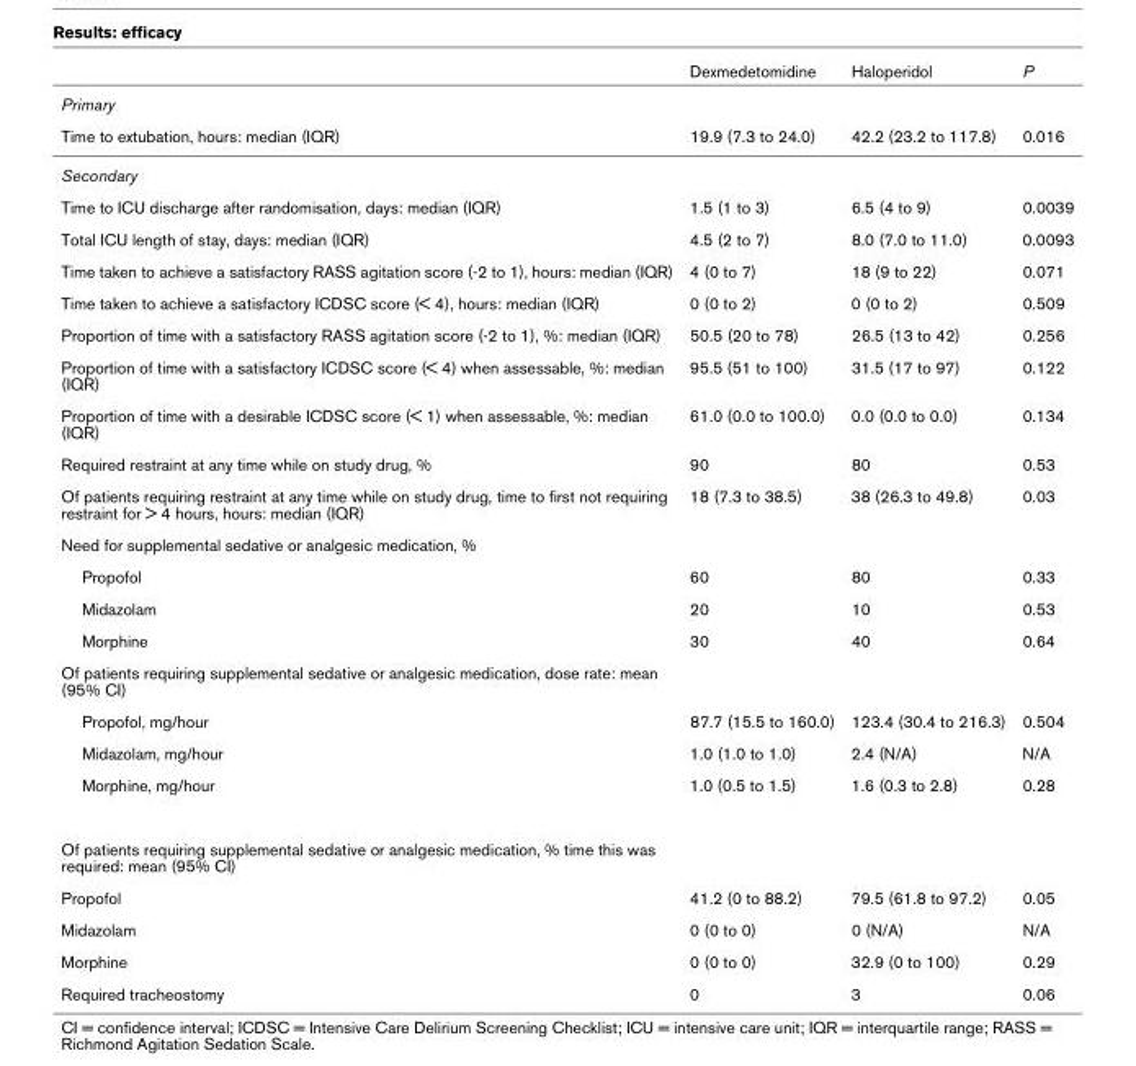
<table><thead><tr><td></td><td>Dexmedetomidine</td><td>Haloperidol</td><td>P</td></tr></thead><tbody><tr><td colspan="4">Primary</td></tr><tr><td>Time to extubation, hours: median (IQR)</td><td>19.9 (7.3 to 24.0)</td><td>42.2 (23.2 to 117.8)</td><td>0.016</td></tr><tr><td colspan="4">Secondary</td></tr><tr><td>Time to ICU discharge after randomisation, days: median (IQR)</td><td>1.5 (1 to 3)</td><td>6.5 (4 to 9)</td><td>0.0039</td></tr><tr><td>Total ICU length of stay, days: median (IQR)</td><td>4.5 (2 to 7)</td><td>8.0 (7.0 to 11.0)</td><td>0.0093</td></tr><tr><td>Time taken to achieve a satisfactory RASS agitation score (-2 to 1), hours: median (IQR)</td><td>4 (0 to 7)</td><td>18 (9 to 22)</td><td>0.071</td></tr><tr><td>Time taken to achieve a satisfactory ICDSC score (&lt; 4), hours: median (IQR)</td><td>0 (0 to 2)</td><td>0 (0 to 2)</td><td>0.509</td></tr><tr><td>Proportion of time with a satisfactory RASS agitation score (-2 to 1), %: median (IQR)</td><td>50.5 (20 to 78)</td><td>26.5 (13 to 42)</td><td>0.256</td></tr><tr><td>Proportion of time with a satisfactory ICDSC score (&lt; 4) when assessable, %: median (IQR)</td><td>95.5 (51 to 100)</td><td>31.5 (17 to 97)</td><td>0.122</td></tr><tr><td>Proportion of time with a desirable ICDSC score (&lt; 1) when assessable, %: median (IQR)</td><td>61.0 (0.0 to 100.0)</td><td>0.0 (0.0 to 0.0)</td><td>0.134</td></tr><tr><td>Required restraint at any time while on study drug, %</td><td>90</td><td>80</td><td>0.53</td></tr><tr><td>Of patients requiring restraint at any time while on study drug, time to first not requiring restraint for &gt; 4 hours, hours: median (IQR)</td><td>18 (7.3 to 38.5)</td><td>38 (26.3 to 49.8)</td><td>0.03</td></tr><tr><td colspan="4">Need for supplemental sedative or analgesic medication, %</td></tr><tr><td>Propofol</td><td>60</td><td>80</td><td>0.33</td></tr><tr><td>Midazolam</td><td>20</td><td>10</td><td>0.53</td></tr><tr><td>Morphine</td><td>30</td><td>40</td><td>0.64</td></tr><tr><td colspan="4">Of patients requiring supplemental sedative or analgesic medication, dose rate: mean (95% CI)</td></tr><tr><td>Propofol, mg/hour</td><td>87.7 (15.5 to 160.0)</td><td>123.4 (30.4 to 216.3)</td><td>0.504</td></tr><tr><td>Midazolam, mg/hour</td><td>1.0 (1.0 to 1.0)</td><td>2.4 (N/A)</td><td>N/A</td></tr><tr><td>Morphine, mg/hour</td><td>1.0 (0.5 to 1.5)</td><td>1.6 (0.3 to 2.8)</td><td>0.28</td></tr><tr><td colspan="4">Of patients requiring supplemental sedative or analgesic medication, % time this was required: mean (95% CI)</td></tr><tr><td>Propofol</td><td>41.2 (0 to 88.2)</td><td>79.5 (61.8 to 97.2)</td><td>0.05</td></tr><tr><td>Midazolam</td><td>0 (0 to 0)</td><td>0 (N/A)</td><td>N/A</td></tr><tr><td>Morphine</td><td>0 (0 to 0)</td><td>32.9 (0 to 100)</td><td>0.29</td></tr><tr><td>Required tracheostomy</td><td>0</td><td>3</td><td>0.06</td></tr></tbody></table>